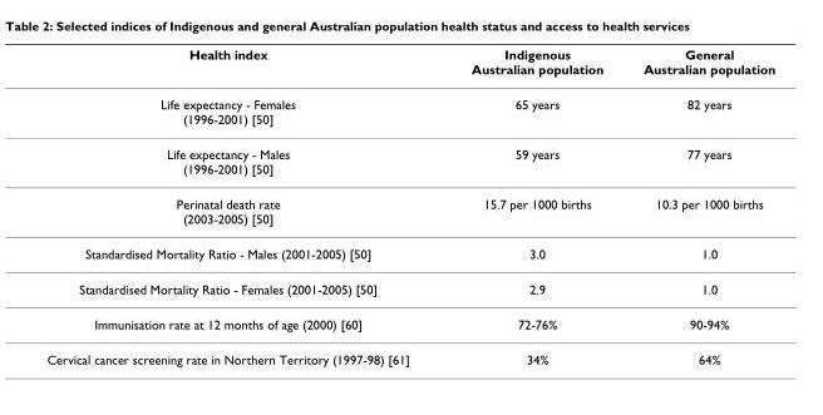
<table><thead><tr><td>Health index</td><td>Indigenous Australian population</td><td>General Australian population</td></tr></thead><tbody><tr><td>Life expectancy - Females (1996-2001) [50]</td><td>65 years</td><td>82 years</td></tr><tr><td>Life expectancy - Males (1996-2001) [50]</td><td>59 years</td><td>77 years</td></tr><tr><td>Perinatal death rate (2003-2005) [50]</td><td>15.7 per 1000 births</td><td>10.3 per 1000 births</td></tr><tr><td>Standardised Mortality Ratio - Males (2001-2005) [50]</td><td>3.0</td><td>1.0</td></tr><tr><td>Standardised Mortality Ratio - Females (2001-2005) [50]</td><td>2.9</td><td>1.0</td></tr><tr><td>Immunisation rate at 12 months of age (2000) [60]</td><td>72-76%</td><td>90-94%</td></tr><tr><td>Cervical cancer screening rate in Northern Territory (1997-98) [61]</td><td>34%</td><td>64%</td></tr></tbody></table>